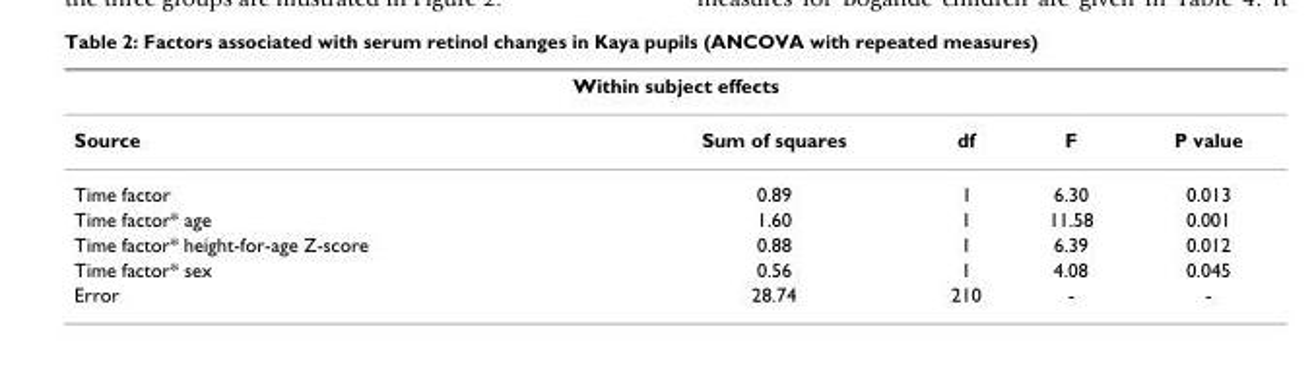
<table><thead><tr><td colspan="5">Within subject effects</td></tr><tr><td>Source</td><td>Sum of squares</td><td>df</td><td>F</td><td>P value</td></tr></thead><tbody><tr><td>Time factor</td><td>0.89</td><td>1</td><td>6.30</td><td>0.013</td></tr><tr><td>Time factor* age</td><td>1.60</td><td>1</td><td>11.58</td><td>0.001</td></tr><tr><td>Time factor* height-for-age Z-score</td><td>0.88</td><td>1</td><td>6.39</td><td>0.012</td></tr><tr><td>Time factor* sex</td><td>0.56</td><td>1</td><td>4.08</td><td>0.045</td></tr><tr><td>Error</td><td>28.74</td><td>210</td><td>-</td><td>-</td></tr></tbody></table>